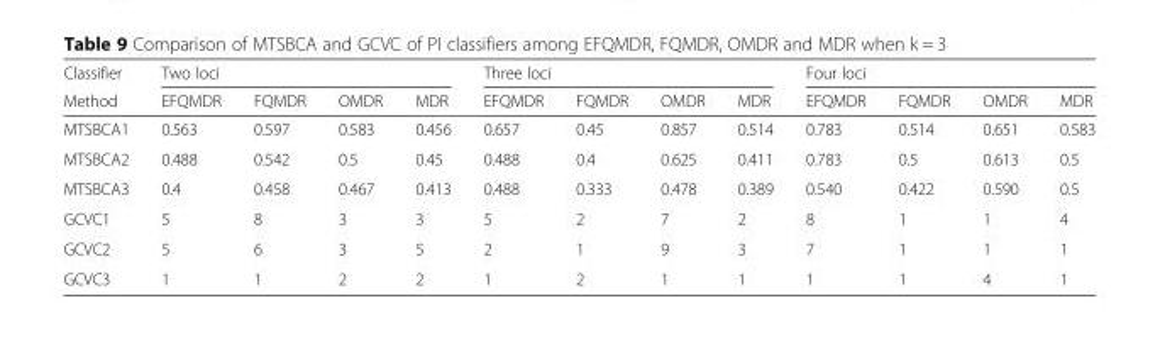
<table><thead><tr><td rowspan="2">Classifier Method</td><td colspan="4">Two loci</td><td colspan="4">Three loci</td><td colspan="4">Four loci</td></tr><tr><td>EFQMDR</td><td>FQMDR</td><td>OMDR</td><td>MDR</td><td>EFQMDR</td><td>FQMDR</td><td>OMDR</td><td>MDR</td><td>EFQMDR</td><td>FQMDR</td><td>OMDR</td><td>MDR</td></tr></thead><tbody><tr><td>MTSBCA1</td><td>0.563</td><td>0.597</td><td>0.583</td><td>0.456</td><td>0.657</td><td>0.45</td><td>0.857</td><td>0.514</td><td>0.783</td><td>0.514</td><td>0.651</td><td>0.583</td></tr><tr><td>MTSBCA2</td><td>0.488</td><td>0.542</td><td>0.5</td><td>0.45</td><td>0.488</td><td>0.4</td><td>0.625</td><td>0.411</td><td>0.783</td><td>0.5</td><td>0.613</td><td>0.5</td></tr><tr><td>MTSBCA3</td><td>0.4</td><td>0.458</td><td>0.467</td><td>0.413</td><td>0.488</td><td>0.333</td><td>0.478</td><td>0.389</td><td>0.540</td><td>0.422</td><td>0.590</td><td>0.5</td></tr><tr><td>GCVC1</td><td>5</td><td>8</td><td>3</td><td>3</td><td>5</td><td>2</td><td>7</td><td>2</td><td>8</td><td>1</td><td>1</td><td>4</td></tr><tr><td>GCVC2</td><td>5</td><td>6</td><td>3</td><td>5</td><td>2</td><td>1</td><td>9</td><td>3</td><td>7</td><td>1</td><td>1</td><td>1</td></tr><tr><td>GCVC3</td><td>1</td><td>1</td><td>2</td><td>2</td><td>1</td><td>2</td><td>1</td><td>1</td><td>1</td><td>1</td><td>4</td><td>1</td></tr></tbody></table>